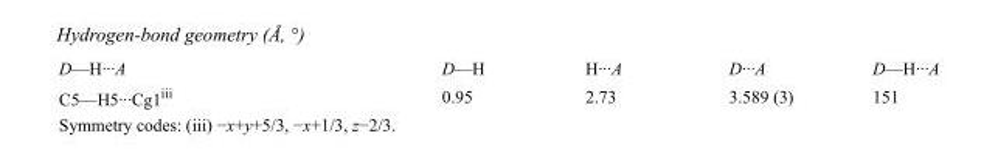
<table><tbody><tr><td>D—H···A</td><td>D—H</td><td>H···A</td><td>D···A</td><td>D—H···A</td></tr><tr><td>C5—H5···Cg1<sup>iii</sup></td><td>0.95</td><td>2.73</td><td>3.589 (3)</td><td>151</td></tr></tbody></table>